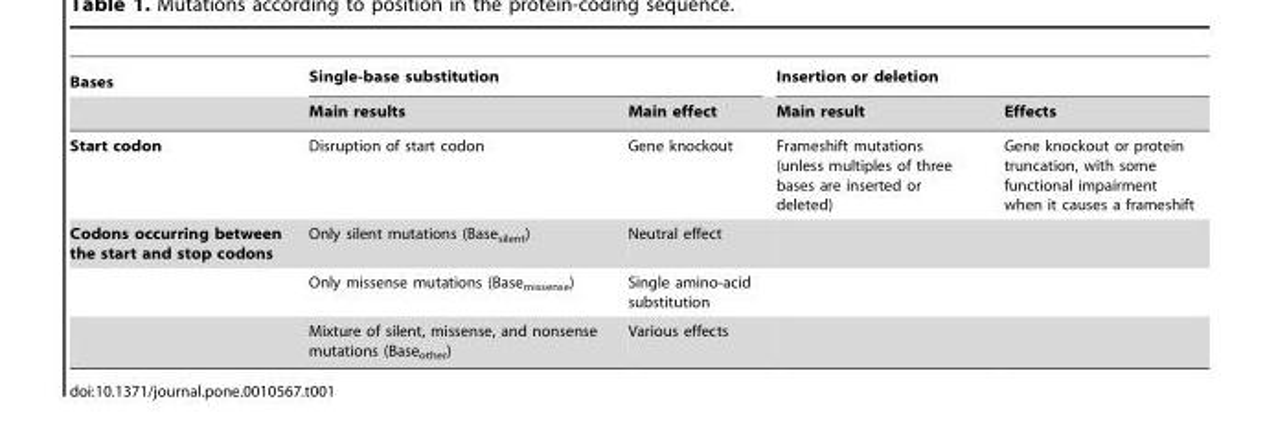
<table><thead><tr><td rowspan="2">Bases</td><td colspan="2">Single-base substitution</td><td colspan="2">Insertion or deletion</td></tr><tr><td>Main results</td><td>Main effect</td><td>Main result</td><td>Effects</td></tr></thead><tbody><tr><td>Start codon</td><td>Disruption of start codon</td><td>Gene knockout</td><td>Frameshift mutations (unless multiples of three bases are inserted or deleted)</td><td>Gene knockout or protein truncation, with some functional impairment when it causes a frameshift</td></tr><tr><td rowspan="3">Codons occurring between the start and stop codons</td><td>Only silent mutations (Base<sub>silent</sub>)</td><td>Neutral effect</td><td></td><td></td></tr><tr><td>Only missense mutations (Base<sub>missense</sub>)</td><td>Single amino-acid substitution</td><td></td><td></td></tr><tr><td>Mixture of silent, missense, and nonsense mutations (Base<sub>other</sub>)</td><td>Various effects</td><td></td><td></td></tr></tbody></table>